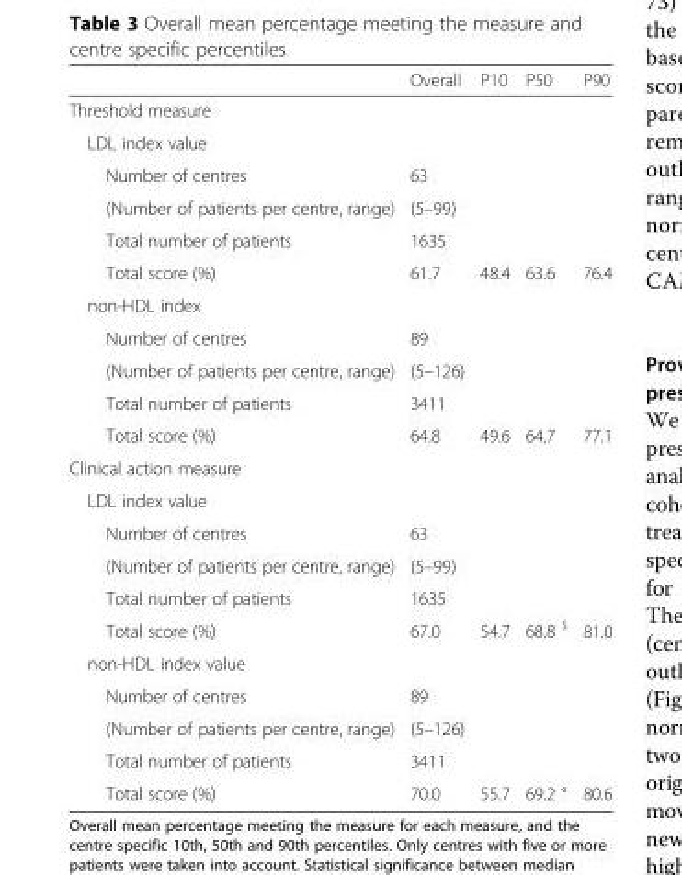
<table><thead><tr><td></td><td>Overall</td><td>P10</td><td>P50</td><td>P90</td></tr></thead><tbody><tr><td colspan="5">Threshold measure</td></tr><tr><td colspan="5">LDL index value</td></tr><tr><td>Number of centres</td><td>63</td><td></td><td></td><td></td></tr><tr><td>(Number of patients per centre, range)</td><td>(5–99)</td><td></td><td></td><td></td></tr><tr><td>Total number of patients</td><td>1635</td><td></td><td></td><td></td></tr><tr><td>Total score (%)</td><td>61.7</td><td>48.4</td><td>63.6</td><td>76.4</td></tr><tr><td colspan="5">non-HDL index</td></tr><tr><td>Number of centres</td><td>89</td><td></td><td></td><td></td></tr><tr><td>(Number of patients per centre, range)</td><td>(5–126)</td><td></td><td></td><td></td></tr><tr><td>Total number of patients</td><td>3411</td><td></td><td></td><td></td></tr><tr><td>Total score (%)</td><td>64.8</td><td>49.6</td><td>64.7</td><td>77.1</td></tr><tr><td colspan="5">Clinical action measure</td></tr><tr><td colspan="5">LDL index value</td></tr><tr><td>Number of centres</td><td>63</td><td></td><td></td><td></td></tr><tr><td>(Number of patients per centre, range)</td><td>(5–99)</td><td></td><td></td><td></td></tr><tr><td>Total number of patients</td><td>1635</td><td></td><td></td><td></td></tr><tr><td>Total score (%)</td><td>67.0</td><td>54.7</td><td>68.8 <sup>$</sup></td><td>81.0</td></tr><tr><td colspan="5">non-HDL index value</td></tr><tr><td>Number of centres</td><td>89</td><td></td><td></td><td></td></tr><tr><td>(Number of patients per centre, range)</td><td>(5–126)</td><td></td><td></td><td></td></tr><tr><td>Total number of patients</td><td>3411</td><td></td><td></td><td></td></tr><tr><td>Total score (%)</td><td>70.0</td><td>55.7</td><td>69.2 °</td><td>80.6</td></tr></tbody></table>